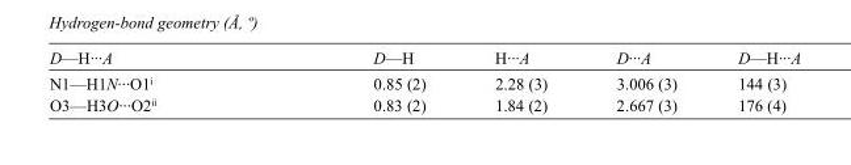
<table><tbody><tr><td>D—H···A</td><td>D—H</td><td>H···A</td><td>D···A</td><td>D—H···A</td></tr><tr><td>N1—H1N···O1<sup>i</sup></td><td>0.85 (2)</td><td>2.28 (3)</td><td>3.006 (3)</td><td>144 (3)</td></tr><tr><td>O3—H3O···O2<sup>ii</sup></td><td>0.83 (2)</td><td>1.84 (2)</td><td>2.667 (3)</td><td>176 (4)</td></tr></tbody></table>